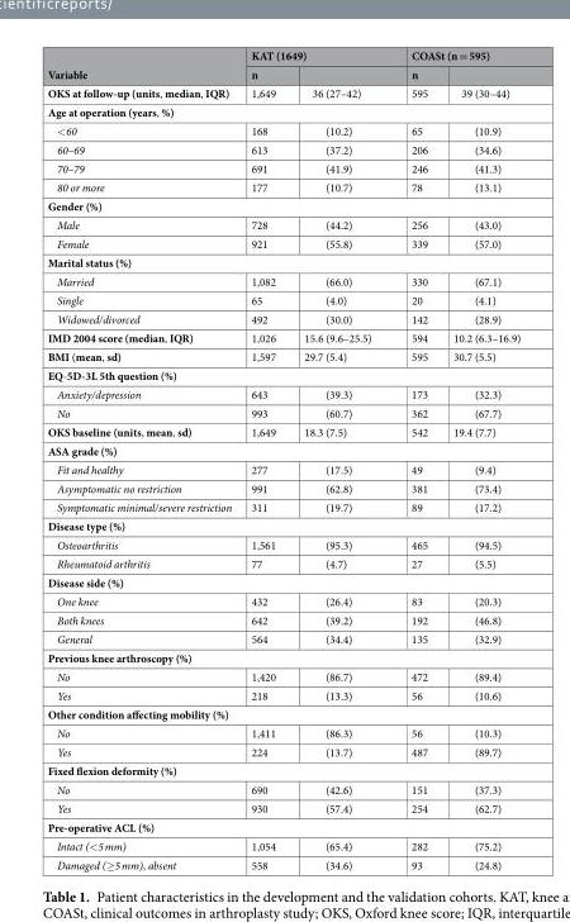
<table><thead><tr><td rowspan="2">Variable</td><td colspan="2">KAT (1649)</td><td colspan="2">COASt (n = 595)</td></tr><tr><td>n</td><td></td><td>n</td><td></td></tr></thead><tbody><tr><td>OKS at follow-up (units, median, IQR)</td><td>1,649</td><td>36 (27–42)</td><td>595</td><td>39 (30–44)</td></tr><tr><td colspan="5">Age at operation (years, %)</td></tr><tr><td>&lt;60</td><td>168</td><td>(10.2)</td><td>65</td><td>(10.9)</td></tr><tr><td>60–69</td><td>613</td><td>(37.2)</td><td>206</td><td>(34.6)</td></tr><tr><td>70–79</td><td>691</td><td>(41.9)</td><td>246</td><td>(41.3)</td></tr><tr><td>80 or more</td><td>177</td><td>(10.7)</td><td>78</td><td>(13.1)</td></tr><tr><td colspan="5">Gender (%)</td></tr><tr><td>Male</td><td>728</td><td>(44.2)</td><td>256</td><td>(43.0)</td></tr><tr><td>Female</td><td>921</td><td>(55.8)</td><td>339</td><td>(57.0)</td></tr><tr><td colspan="5">Marital status (%)</td></tr><tr><td>Married</td><td>1,082</td><td>(66.0)</td><td>330</td><td>(67.1)</td></tr><tr><td>Single</td><td>65</td><td>(4.0)</td><td>20</td><td>(4.1)</td></tr><tr><td>Widowed/divorced</td><td>492</td><td>(30.0)</td><td>142</td><td>(28.9)</td></tr><tr><td>IMD 2004 score (median, IQR)</td><td>1,026</td><td>15.6 (9.6–25.5)</td><td>594</td><td>10.2 (6.3–16.9)</td></tr><tr><td>BMI (mean, sd)</td><td>1,597</td><td>29.7 (5.4)</td><td>595</td><td>30.7 (5.5)</td></tr><tr><td colspan="5">EQ-5D-3L 5th question (%)</td></tr><tr><td>Anxiety/depression</td><td>643</td><td>(39.3)</td><td>173</td><td>(32.3)</td></tr><tr><td>No</td><td>993</td><td>(60.7)</td><td>362</td><td>(67.7)</td></tr><tr><td>OKS baseline (units, mean, sd)</td><td>1,649</td><td>18.3 (7.5)</td><td>542</td><td>19.4 (7.7)</td></tr><tr><td colspan="5">ASA grade (%)</td></tr><tr><td>Fit and healthy</td><td>277</td><td>(17.5)</td><td>49</td><td>(9.4)</td></tr><tr><td>Asymptomatic no restriction</td><td>991</td><td>(62.8)</td><td>381</td><td>(73.4)</td></tr><tr><td>Symptomatic minimal/severe restriction</td><td>311</td><td>(19.7)</td><td>89</td><td>(17.2)</td></tr><tr><td colspan="5">Disease type (%)</td></tr><tr><td>Osteoarthritis</td><td>1,561</td><td>(95.3)</td><td>465</td><td>(94.5)</td></tr><tr><td>Rheumatoid arthritis</td><td>77</td><td>(4.7)</td><td>27</td><td>(5.5)</td></tr><tr><td colspan="5">Disease side (%)</td></tr><tr><td>One knee</td><td>432</td><td>(26.4)</td><td>83</td><td>(20.3)</td></tr><tr><td>Both knees</td><td>642</td><td>(39.2)</td><td>192</td><td>(46.8)</td></tr><tr><td>General</td><td>564</td><td>(34.4)</td><td>135</td><td>(32.9)</td></tr><tr><td colspan="5">Previous knee arthroscopy (%)</td></tr><tr><td>No</td><td>1,420</td><td>(86.7)</td><td>472</td><td>(89.4)</td></tr><tr><td>Yes</td><td>218</td><td>(13.3)</td><td>56</td><td>(10.6)</td></tr><tr><td colspan="5">Other condition affecting mobility (%)</td></tr><tr><td>No</td><td>1,411</td><td>(86.3)</td><td>56</td><td>(10.3)</td></tr><tr><td>Yes</td><td>224</td><td>(13.7)</td><td>487</td><td>(89.7)</td></tr><tr><td colspan="5">Fixed flexion deformity (%)</td></tr><tr><td>No</td><td>690</td><td>(42.6)</td><td>151</td><td>(37.3)</td></tr><tr><td>Yes</td><td>930</td><td>(57.4)</td><td>254</td><td>(62.7)</td></tr><tr><td colspan="5">Pre-operative ACL (%)</td></tr><tr><td>Intact (&lt;5 mm)</td><td>1,054</td><td>(65.4)</td><td>282</td><td>(75.2)</td></tr><tr><td>Damaged (≥5 mm), absent</td><td>558</td><td>(34.6)</td><td>93</td><td>(24.8)</td></tr></tbody></table>